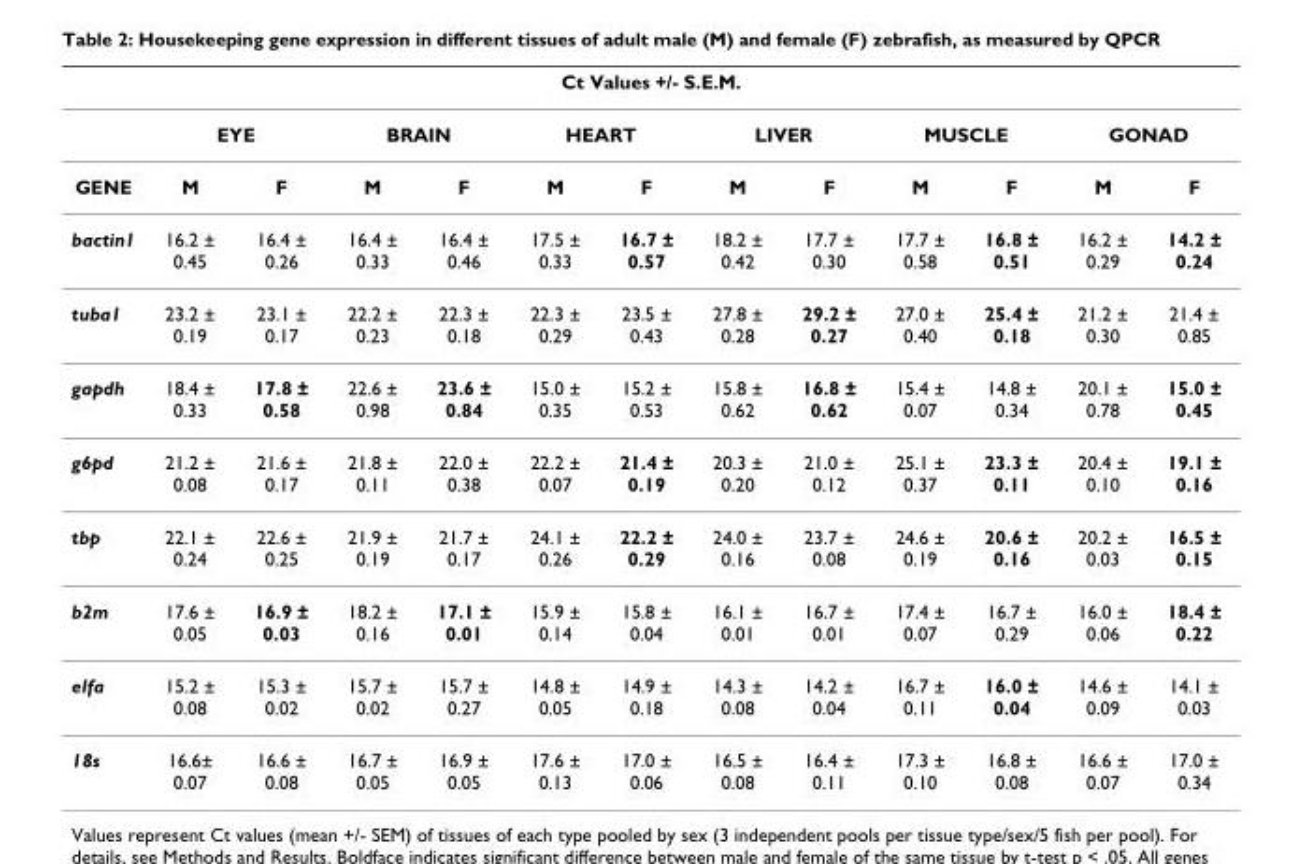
<table><thead><tr><td colspan="13">Ct Values +/- S.E.M.</td></tr><tr><td rowspan="2">GENE</td><td colspan="2">EYE</td><td colspan="2">BRAIN</td><td colspan="2">HEART</td><td colspan="2">LIVER</td><td colspan="2">MUSCLE</td><td colspan="2">GONAD</td></tr><tr><td>M</td><td>F</td><td>M</td><td>F</td><td>M</td><td>F</td><td>M</td><td>F</td><td>M</td><td>F</td><td>M</td><td>F</td></tr></thead><tbody><tr><td>bactin1</td><td>16.2 ± 0.45</td><td>16.4 ± 0.26</td><td>16.4 ± 0.33</td><td>16.4 ± 0.46</td><td>17.5 ± 0.33</td><td>16.7 ± 0.57</td><td>18.2 ± 0.42</td><td>17.7 ± 0.30</td><td>17.7 ± 0.58</td><td>16.8 ± 0.51</td><td>16.2 ± 0.29</td><td>14.2 ± 0.24</td></tr><tr><td>tuba1</td><td>23.2 ± 0.19</td><td>23.1 ± 0.17</td><td>22.2 ± 0.23</td><td>22.3 ± 0.18</td><td>22.3 ± 0.29</td><td>23.5 ± 0.43</td><td>27.8 ± 0.28</td><td>29.2 ± 0.27</td><td>27.0 ± 0.40</td><td>25.4 ± 0.18</td><td>21.2 ± 0.30</td><td>21.4 ± 0.85</td></tr><tr><td>gapdh</td><td>18.4 ± 0.33</td><td>17.8 ± 0.58</td><td>22.6 ± 0.98</td><td>23.6 ± 0.84</td><td>15.0 ± 0.35</td><td>15.2 ± 0.53</td><td>15.8 ± 0.62</td><td>16.8 ± 0.62</td><td>15.4 ± 0.07</td><td>14.8 ± 0.34</td><td>20.1 ± 0.78</td><td>15.0 ± 0.45</td></tr><tr><td>g6pd</td><td>21.2 ± 0.08</td><td>21.6 ± 0.17</td><td>21.8 ± 0.11</td><td>22.0 ± 0.38</td><td>22.2 ± 0.07</td><td>21.4 ± 0.19</td><td>20.3 ± 0.20</td><td>21.0 ± 0.12</td><td>25.1 ± 0.37</td><td>23.3 ± 0.11</td><td>20.4 ± 0.10</td><td>19.1 ± 0.16</td></tr><tr><td>tbp</td><td>22.1 ± 0.24</td><td>22.6 ± 0.25</td><td>21.9 ± 0.19</td><td>21.7 ± 0.17</td><td>24.1 ± 0.26</td><td>22.2 ± 0.29</td><td>24.0 ± 0.16</td><td>23.7 ± 0.08</td><td>24.6 ± 0.19</td><td>20.6 ± 0.16</td><td>20.2 ± 0.03</td><td>16.5 ± 0.15</td></tr><tr><td>b2m</td><td>17.6 ± 0.05</td><td>16.9 ± 0.03</td><td>18.2 ± 0.16</td><td>17.1 ± 0.01</td><td>15.9 ± 0.14</td><td>15.8 ± 0.04</td><td>16.1 ± 0.01</td><td>16.7 ± 0.01</td><td>17.4 ± 0.07</td><td>16.7 ± 0.29</td><td>16.0 ± 0.06</td><td>18.4 ± 0.22</td></tr><tr><td>elfa</td><td>15.2 ± 0.08</td><td>15.3 ± 0.02</td><td>15.7 ± 0.02</td><td>15.7 ± 0.27</td><td>14.8 ± 0.05</td><td>14.9 ± 0.18</td><td>14.3 ± 0.08</td><td>14.2 ± 0.04</td><td>16.7 ± 0.11</td><td>16.0 ± 0.04</td><td>14.6 ± 0.09</td><td>14.1 ± 0.03</td></tr><tr><td>18s</td><td>16.6± 0.07</td><td>16.6 ± 0.08</td><td>16.7 ± 0.05</td><td>16.9 ± 0.05</td><td>17.6 ± 0.13</td><td>17.0 ± 0.06</td><td>16.5 ± 0.08</td><td>16.4 ± 0.11</td><td>17.3 ± 0.10</td><td>16.8 ± 0.08</td><td>16.6 ± 0.07</td><td>17.0 ± 0.34</td></tr></tbody></table>